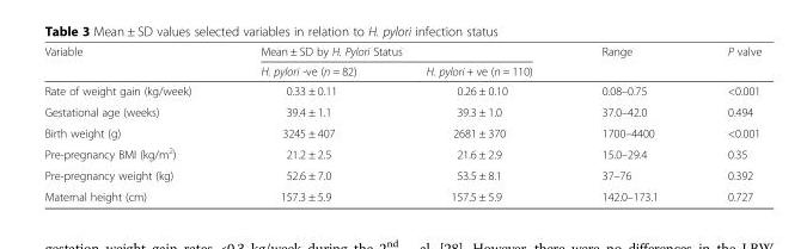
<table><thead><tr><td rowspan="2">Variable</td><td colspan="2">Mean ± SD by H. Pylori Status</td><td rowspan="2">Range</td><td rowspan="2">P valve</td></tr><tr><td>H. pylori -ve (n = 82)</td><td>H. pylori + ve (n = 110)</td></tr></thead><tbody><tr><td>Rate of weight gain (kg/week)</td><td>0.33 ± 0.11</td><td>0.26 ± 0.10</td><td>0.08–0.75</td><td>&lt;0.001</td></tr><tr><td>Gestational age (weeks)</td><td>39.4 ± 1.1</td><td>39.3 ± 1.0</td><td>37.0–42.0</td><td>0.494</td></tr><tr><td>Birth weight (g)</td><td>3245 ± 407</td><td>2681 ± 370</td><td>1700–4400</td><td>&lt;0.001</td></tr><tr><td>Pre-pregnancy BMI (kg/m<sup>2</sup>)</td><td>21.2 ± 2.5</td><td>21.6 ± 2.9</td><td>15.0–29.4</td><td>0.35</td></tr><tr><td>Pre-pregnancy weight (kg)</td><td>52.6 ± 7.0</td><td>53.5 ± 8.1</td><td>37–76</td><td>0.392</td></tr><tr><td>Maternal height (cm)</td><td>157.3 ± 5.9</td><td>157.5 ± 5.9</td><td>142.0–173.1</td><td>0.727</td></tr></tbody></table>